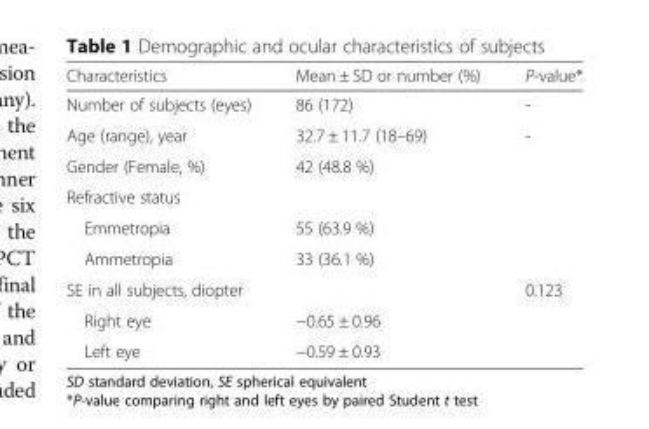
<table><thead><tr><td>Characteristics</td><td>Mean ± SD or number (%)</td><td>P-value*</td></tr></thead><tbody><tr><td>Number of subjects (eyes)</td><td>86 (172)</td><td>-</td></tr><tr><td>Age (range), year</td><td>32.7 ± 11.7 (18–69)</td><td>-</td></tr><tr><td>Gender (Female, %)</td><td>42 (48.8 %)</td><td></td></tr><tr><td colspan="3">Refractive status</td></tr><tr><td>Emmetropia</td><td>55 (63.9 %)</td><td></td></tr><tr><td>Ammetropia</td><td>33 (36.1 %)</td><td></td></tr><tr><td>SE in all subjects, diopter</td><td></td><td>0.123</td></tr><tr><td>Right eye</td><td>−0.65 ± 0.96</td><td></td></tr><tr><td>Left eye</td><td>−0.59 ± 0.93</td><td></td></tr></tbody></table>